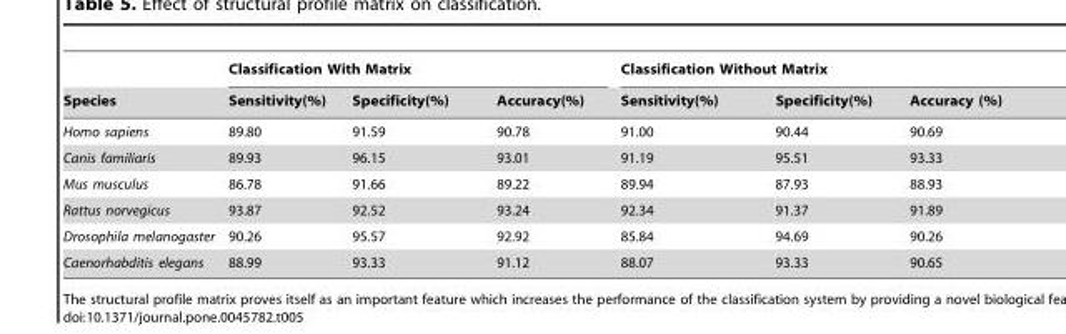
<table><thead><tr><td rowspan="2">Species</td><td colspan="3">Classification With Matrix</td><td colspan="3">Classification Without Matrix</td></tr><tr><td>Sensitivity(%)</td><td>Specificity(%)</td><td>Accuracy(%)</td><td>Sensitivity(%)</td><td>Specificity(%)</td><td>Accuracy (%)</td></tr></thead><tbody><tr><td>Homo sapiens</td><td>89.80</td><td>91.59</td><td>90.78</td><td>91.00</td><td>90.44</td><td>90.69</td></tr><tr><td>Canis familiaris</td><td>89.93</td><td>96.15</td><td>93.01</td><td>91.19</td><td>95.51</td><td>93.33</td></tr><tr><td>Mus musculus</td><td>86.78</td><td>91.66</td><td>89.22</td><td>89.94</td><td>87.93</td><td>88.93</td></tr><tr><td>Rattus norvegicus</td><td>93.87</td><td>92.52</td><td>93.24</td><td>92.34</td><td>91.37</td><td>91.89</td></tr><tr><td>Drosophila melanogaster</td><td>90.26</td><td>95.57</td><td>92.92</td><td>85.84</td><td>94.69</td><td>90.26</td></tr><tr><td>Caenorhabditis elegans</td><td>88.99</td><td>93.33</td><td>91.12</td><td>88.07</td><td>93.33</td><td>90.65</td></tr></tbody></table>